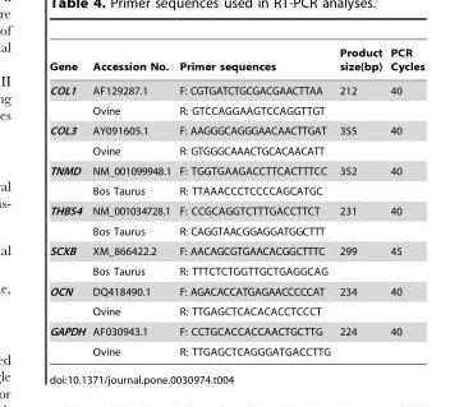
<table><thead><tr><td>Gene</td><td>Accession No.</td><td>Primer sequences</td><td>Product size(bp)</td><td>PCR Cycles</td></tr></thead><tbody><tr><td rowspan="2">COL1</td><td>AF129287.1</td><td>F: CGTGATCTGCGACGAACTTAA</td><td>212</td><td>40</td></tr><tr><td>Ovine</td><td>R: GTCCAGGAAGTCCAGGTTGT</td><td></td><td></td></tr><tr><td rowspan="2">COL3</td><td>AY091605.1</td><td>F: AAGGGCAGGGAACAACTTGAT</td><td>355</td><td>40</td></tr><tr><td>Ovine</td><td>R: GTGGGCAAACTGCACAACATT</td><td></td><td></td></tr><tr><td rowspan="2">TNMD</td><td>NM_001099948.1</td><td>F: TGGTGAAGACCTTCACTTTCC</td><td>352</td><td>40</td></tr><tr><td>Bos Taurus</td><td>R: TTAAACCCTCCCCAGCATGC</td><td></td><td></td></tr><tr><td rowspan="2">THBS4</td><td>NM_001034728.1</td><td>F: CCGCAGGTCTTTGACCTTCT</td><td>231</td><td>40</td></tr><tr><td>Bos Taurus</td><td>R: CAGGTAACGGAGGATGGCTTT</td><td></td><td></td></tr><tr><td rowspan="2">SCXB</td><td>XM_866422.2</td><td>F: AACAGCGTGAACACGGCTTTC</td><td>299</td><td>45</td></tr><tr><td>Bos Taurus</td><td>R: TTTCTCTGGTTGCTGAGGCAG</td><td></td><td></td></tr><tr><td rowspan="2">OCN</td><td>DQ418490.1</td><td>F: AGACACCATGAGAACCCCCAT</td><td>234</td><td>40</td></tr><tr><td>Ovine</td><td>R: TTGAGCTCACACACCTCCCT</td><td></td><td></td></tr><tr><td rowspan="2">GAPDH</td><td>AF030943.1</td><td>F: CCTGCACCACCAACTGCTTG</td><td>224</td><td>40</td></tr><tr><td>Ovine</td><td>R: TTGAGCTCAGGGATGACCTTG</td><td></td><td></td></tr></tbody></table>